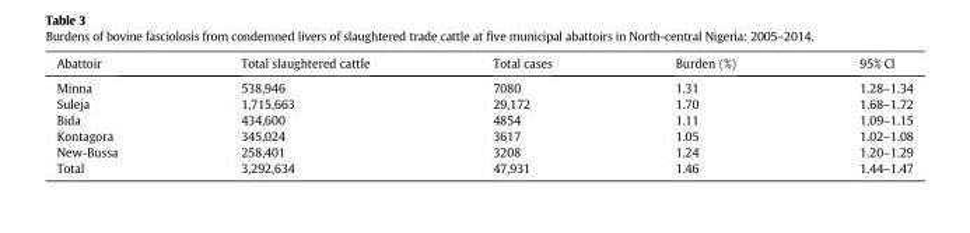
<table><thead><tr><td>Abattoir</td><td>Total slaughtered cattle</td><td>Total cases</td><td>Burden (%)</td><td>95% CI</td></tr></thead><tbody><tr><td>Minna</td><td>538,946</td><td>7080</td><td>1.31</td><td>1.28–1.34</td></tr><tr><td>Suleja</td><td>1,715,663</td><td>29,172</td><td>1.70</td><td>1.68–1.72</td></tr><tr><td>Bida</td><td>434,600</td><td>4854</td><td>1.11</td><td>1.09–1.15</td></tr><tr><td>Kontagora</td><td>345,024</td><td>3617</td><td>1.05</td><td>1.02–1.08</td></tr><tr><td>New-Bussa</td><td>258,401</td><td>3208</td><td>1.24</td><td>1.20–1.29</td></tr><tr><td>Total</td><td>3,292,634</td><td>47,931</td><td>1.46</td><td>1.44–1.47</td></tr></tbody></table>